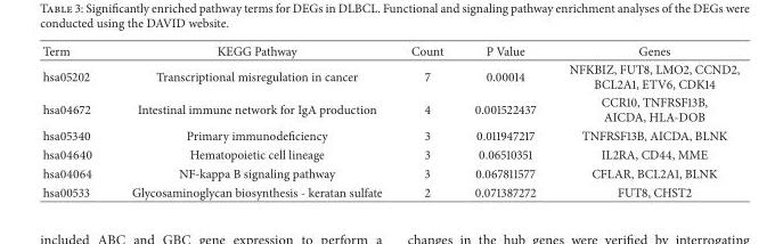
<table><thead><tr><td>Term</td><td>KEGG Pathway</td><td>Count</td><td>P Value</td><td>Genes</td></tr></thead><tbody><tr><td>hsa05202</td><td>Transcriptional misregulation in cancer</td><td>7</td><td>0.00014</td><td>NFKBIZ, FUT8, LMO2, CCND2, BCL2A1, ETV6, CDK14</td></tr><tr><td>hsa04672</td><td>Intestinal immune network for IgA production</td><td>4</td><td>0.001522437</td><td>CCR10, TNFRSF13B, AICDA, HLA-DOB</td></tr><tr><td>hsa05340</td><td>Primary immunodeficiency</td><td>3</td><td>0.011947217</td><td>TNFRSF13B, AICDA, BLNK</td></tr><tr><td>hsa04640</td><td>Hematopoietic cell lineage</td><td>3</td><td>0.06510351</td><td>IL2RA, CD44, MME</td></tr><tr><td>hsa04064</td><td>NF-kappa B signaling pathway</td><td>3</td><td>0.067811577</td><td>CFLAR, BCL2A1, BLNK</td></tr><tr><td>hsa00533</td><td>Glycosaminoglycan biosynthesis - keratan sulfate</td><td>2</td><td>0.071387272</td><td>FUT8, CHST2</td></tr></tbody></table>